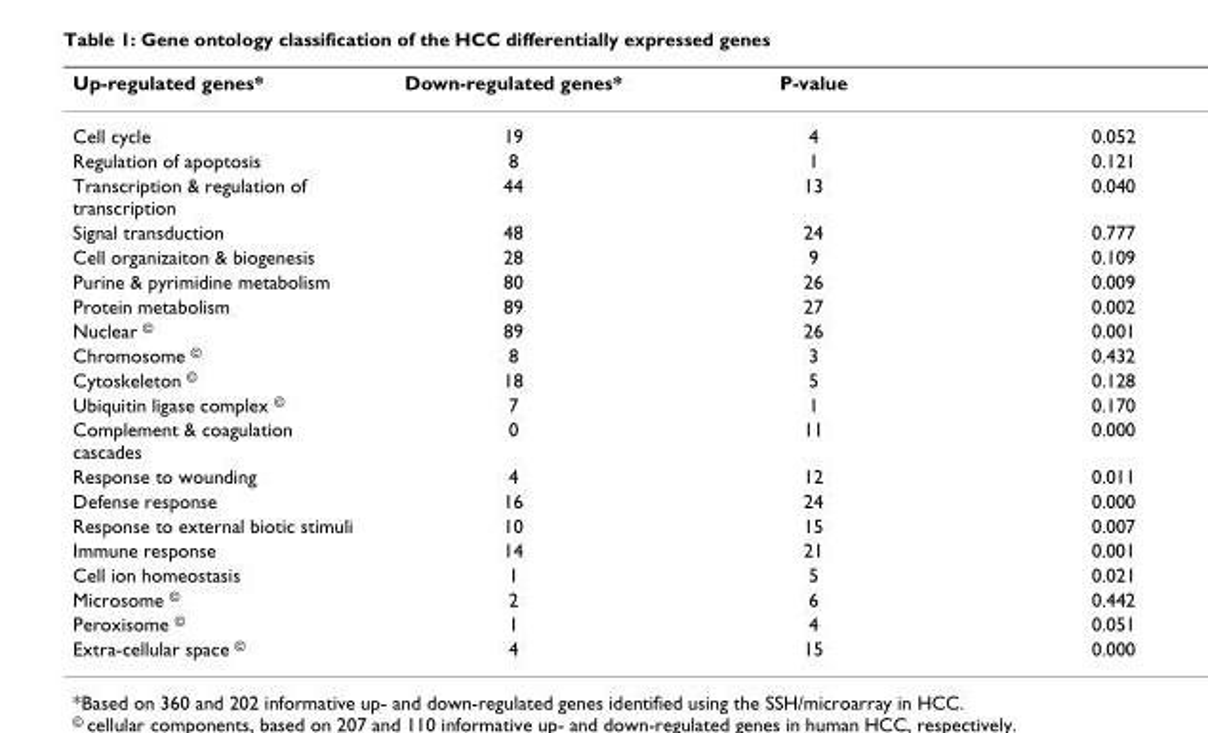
<table><thead><tr><td>Up-regulated genes*</td><td>Down-regulated genes*</td><td>P-value</td><td></td></tr></thead><tbody><tr><td>Cell cycle</td><td>19</td><td>4</td><td>0.052</td></tr><tr><td>Regulation of apoptosis</td><td>8</td><td>1</td><td>0.121</td></tr><tr><td>Transcription &amp; regulation of transcription</td><td>44</td><td>13</td><td>0.040</td></tr><tr><td>Signal transduction</td><td>48</td><td>24</td><td>0.777</td></tr><tr><td>Cell organizaiton &amp; biogenesis</td><td>28</td><td>9</td><td>0.109</td></tr><tr><td>Purine &amp; pyrimidine metabolism</td><td>80</td><td>26</td><td>0.009</td></tr><tr><td>Protein metabolism</td><td>89</td><td>27</td><td>0.002</td></tr><tr><td>Nuclear <sup>©</sup></td><td>89</td><td>26</td><td>0.001</td></tr><tr><td>Chromosome <sup>©</sup></td><td>8</td><td>3</td><td>0.432</td></tr><tr><td>Cytoskeleton <sup>©</sup></td><td>18</td><td>5</td><td>0.128</td></tr><tr><td>Ubiquitin ligase complex <sup>©</sup></td><td>7</td><td>1</td><td>0.170</td></tr><tr><td>Complement &amp; coagulation cascades</td><td>0</td><td>11</td><td>0.000</td></tr><tr><td>Response to wounding</td><td>4</td><td>12</td><td>0.011</td></tr><tr><td>Defense response</td><td>16</td><td>24</td><td>0.000</td></tr><tr><td>Response to external biotic stimuli</td><td>10</td><td>15</td><td>0.007</td></tr><tr><td>Immune response</td><td>14</td><td>21</td><td>0.001</td></tr><tr><td>Cell ion homeostasis</td><td>1</td><td>5</td><td>0.021</td></tr><tr><td>Microsome <sup>©</sup></td><td>2</td><td>6</td><td>0.442</td></tr><tr><td>Peroxisome <sup>©</sup></td><td>1</td><td>4</td><td>0.051</td></tr><tr><td>Extra-cellular space <sup>©</sup></td><td>4</td><td>15</td><td>0.000</td></tr></tbody></table>